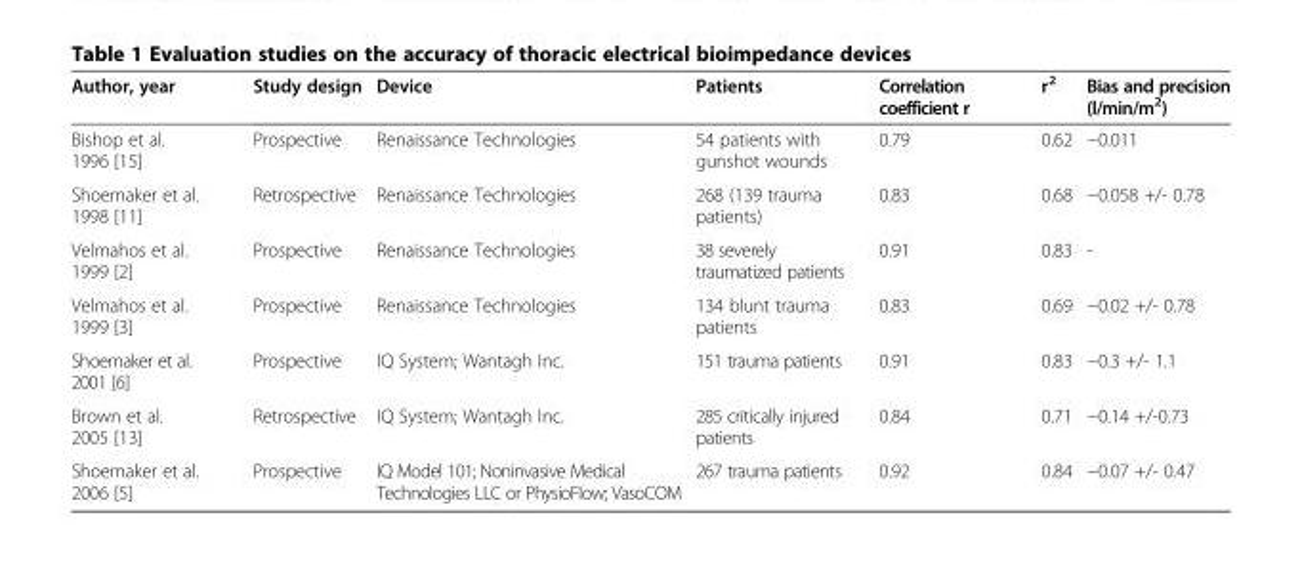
<table><thead><tr><td>Author, year</td><td>Study design</td><td>Device</td><td>Patients</td><td>Correlation coefficient r</td><td>r<sup>2</sup></td><td>Bias and precision (l/min/m<sup>2</sup>)</td></tr></thead><tbody><tr><td>Bishop et al. 1996 [15]</td><td>Prospective</td><td>Renaissance Technologies</td><td>54 patients with gunshot wounds</td><td>0.79</td><td>0.62</td><td>−0.011</td></tr><tr><td>Shoemaker et al. 1998 [11]</td><td>Retrospective</td><td>Renaissance Technologies</td><td>268 (139 trauma patients)</td><td>0.83</td><td>0.68</td><td>−0.058 +/- 0.78</td></tr><tr><td>Velmahos et al. 1999 [2]</td><td>Prospective</td><td>Renaissance Technologies</td><td>38 severely traumatized patients</td><td>0.91</td><td>0.83</td><td>-</td></tr><tr><td>Velmahos et al. 1999 [3]</td><td>Prospective</td><td>Renaissance Technologies</td><td>134 blunt trauma patients</td><td>0.83</td><td>0.69</td><td>−0.02 +/- 0.78</td></tr><tr><td>Shoemaker et al. 2001 [6]</td><td>Prospective</td><td>IQ System; Wantagh Inc.</td><td>151 trauma patients</td><td>0.91</td><td>0.83</td><td>−0.3 +/- 1.1</td></tr><tr><td>Brown et al. 2005 [13]</td><td>Retrospective</td><td>IQ System; Wantagh Inc.</td><td>285 critically injured patients</td><td>0.84</td><td>0.71</td><td>−0.14 +/-0.73</td></tr><tr><td>Shoemaker et al. 2006 [5]</td><td>Prospective</td><td>IQ Model 101; Noninvasive Medical Technologies LLC or PhysioFlow; VasoCOM</td><td>267 trauma patients</td><td>0.92</td><td>0.84</td><td>−0.07 +/- 0.47</td></tr></tbody></table>